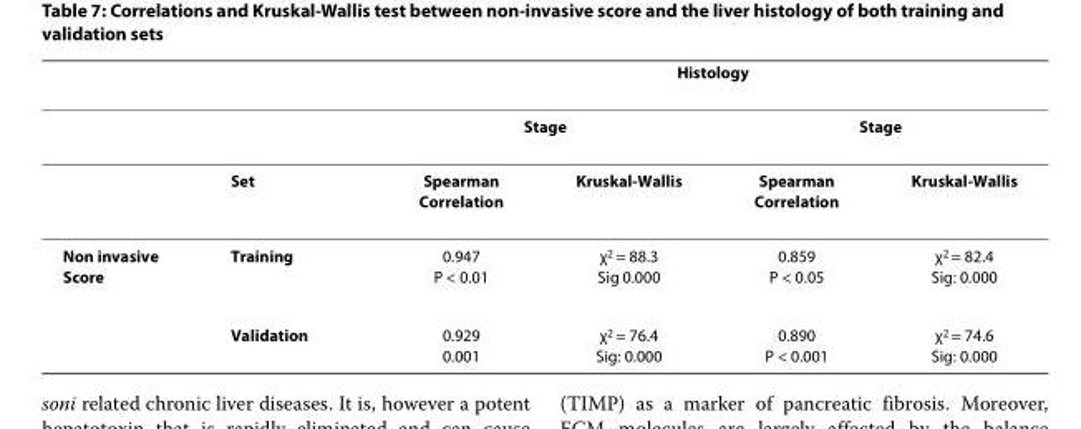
<table><thead><tr><td rowspan="3"></td><td rowspan="3">Set</td><td colspan="4">Histology</td></tr><tr><td colspan="2">Stage</td><td colspan="2">Stage</td></tr><tr><td>Spearman Correlation</td><td>Kruskal-Wallis</td><td>Spearman Correlation</td><td>Kruskal-Wallis</td></tr></thead><tbody><tr><td rowspan="2">Non invasive Score</td><td>Training</td><td>0.947 P &lt; 0.01</td><td>χ<sup>2</sup> = 88.3 Sig 0.000</td><td>0.859 P &lt; 0.05</td><td>χ<sup>2</sup> = 82.4 Sig: 0.000</td></tr><tr><td>Validation</td><td>0.929 0.001</td><td>χ<sup>2</sup> = 76.4 Sig: 0.000</td><td>0.890 P &lt; 0.001</td><td>χ<sup>2</sup> = 74.6 Sig: 0.000</td></tr></tbody></table>